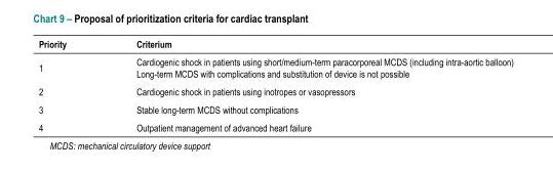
<table><thead><tr><td>Priority</td><td>Criterium</td></tr></thead><tbody><tr><td>1</td><td>Cardiogenic shock in patients using short/medium-term paracorporeal MCDS (including intra-aortic balloon) Long‑term MCDS with complications and substitution of device is not possible</td></tr><tr><td>2</td><td>Cardiogenic shock in patients using inotropes or vasopressors</td></tr><tr><td>3</td><td>Stable long‑term MCDS without complications</td></tr><tr><td>4</td><td>Outpatient management of advanced heart failure</td></tr></tbody></table>